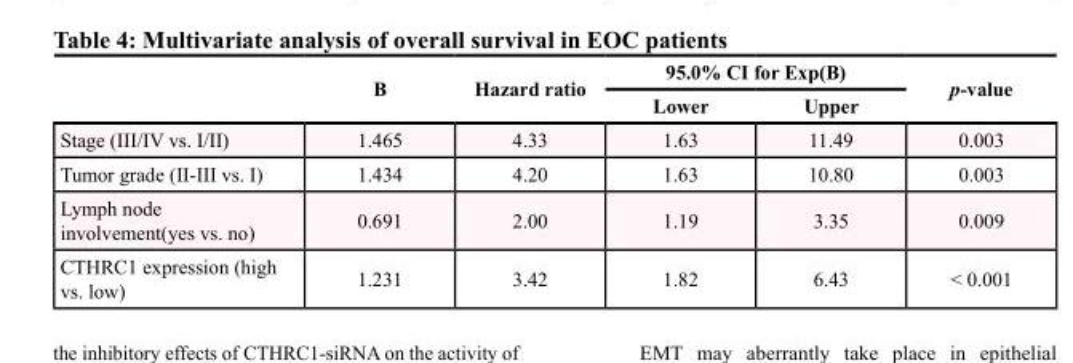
<table><thead><tr><td rowspan="2"></td><td rowspan="2">B</td><td rowspan="2">Hazard ratio</td><td colspan="2">95.0% CI for Exp(B)</td><td rowspan="2">p-value</td></tr><tr><td>Lower</td><td>Upper</td></tr></thead><tbody><tr><td>Stage (III/IV vs. I/II)</td><td>1.465</td><td>4.33</td><td>1.63</td><td>11.49</td><td>0.003</td></tr><tr><td>Tumor grade (II-III vs. I)</td><td>1.434</td><td>4.20</td><td>1.63</td><td>10.80</td><td>0.003</td></tr><tr><td>Lymph node involvement(yes vs. no)</td><td>0.691</td><td>2.00</td><td>1.19</td><td>3.35</td><td>0.009</td></tr><tr><td>CTHRC1 expression (high vs. low)</td><td>1.231</td><td>3.42</td><td>1.82</td><td>6.43</td><td>&lt; 0.001</td></tr></tbody></table>